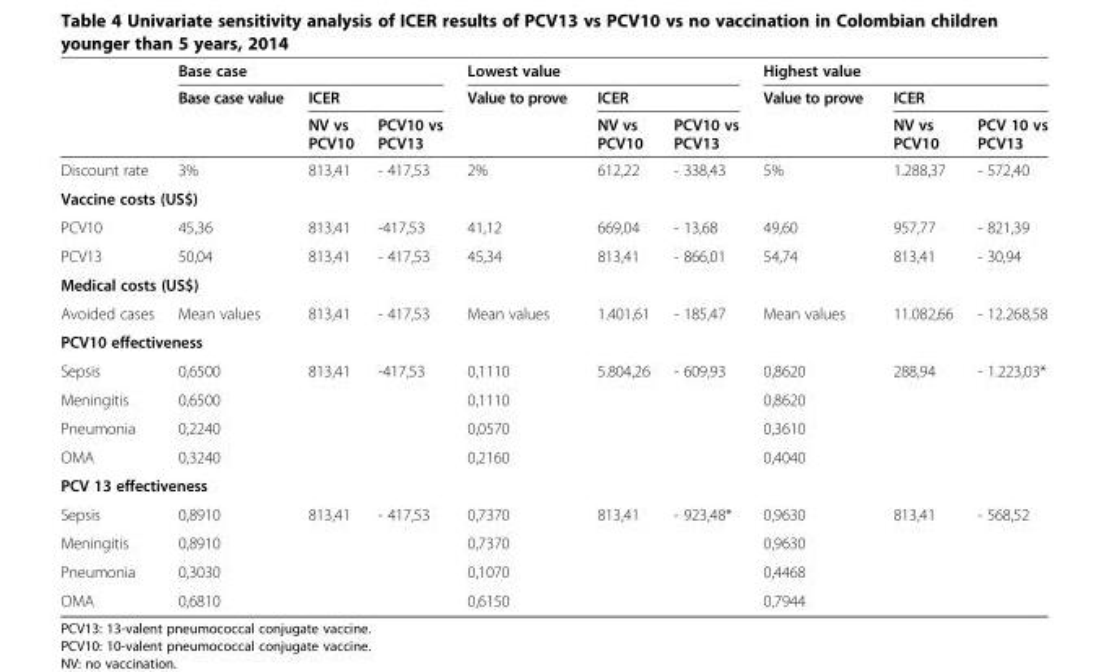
<table><thead><tr><td rowspan="3"></td><td colspan="3">Base case</td><td colspan="3">Lowest value</td><td colspan="3">Highest value</td></tr><tr><td rowspan="2">Base case value</td><td colspan="2">ICER</td><td rowspan="2">Value to prove</td><td colspan="2">ICER</td><td rowspan="2">Value to prove</td><td colspan="2">ICER</td></tr><tr><td>NV vs PCV10</td><td>PCV10 vs PCV13</td><td>NV vs PCV10</td><td>PCV10 vs PCV13</td><td>NV vs PCV10</td><td>PCV 10 vs PCV13</td></tr></thead><tbody><tr><td>Discount rate</td><td>3%</td><td>813,41</td><td>- 417,53</td><td>2%</td><td>612,22</td><td>- 338,43</td><td>5%</td><td>1.288,37</td><td>- 572,40</td></tr><tr><td colspan="10">Vaccine costs (US$)</td></tr><tr><td>PCV10</td><td>45,36</td><td>813,41</td><td>-417,53</td><td>41,12</td><td>669,04</td><td>- 13,68</td><td>49,60</td><td>957,77</td><td>- 821,39</td></tr><tr><td>PCV13</td><td>50,04</td><td>813,41</td><td>- 417,53</td><td>45,34</td><td>813,41</td><td>- 866,01</td><td>54,74</td><td>813,41</td><td>- 30,94</td></tr><tr><td colspan="10">Medical costs (US$)</td></tr><tr><td>Avoided cases</td><td>Mean values</td><td>813,41</td><td>- 417,53</td><td>Mean values</td><td>1.401,61</td><td>- 185,47</td><td>Mean values</td><td>11.082,66</td><td>- 12.268,58</td></tr><tr><td colspan="10">PCV10 effectiveness</td></tr><tr><td>Sepsis</td><td>0,6500</td><td rowspan="4">813,41</td><td rowspan="4">-417,53</td><td>0,1110</td><td rowspan="4">5.804,26</td><td rowspan="4">- 609,93</td><td>0,8620</td><td rowspan="4">288,94</td><td rowspan="4">- 1.223,03*</td></tr><tr><td>Meningitis</td><td>0,6500</td><td>0,1110</td><td>0,8620</td></tr><tr><td>Pneumonia</td><td>0,2240</td><td>0,0570</td><td>0,3610</td></tr><tr><td>OMA</td><td>0,3240</td><td>0,2160</td><td>0,4040</td></tr><tr><td colspan="10">PCV 13 effectiveness</td></tr><tr><td>Sepsis</td><td>0,8910</td><td rowspan="4">813,41</td><td rowspan="4">- 417,53</td><td>0,7370</td><td rowspan="4">813,41</td><td rowspan="4">- 923,48*</td><td>0,9630</td><td rowspan="4">813,41</td><td rowspan="4">- 568,52</td></tr><tr><td>Meningitis</td><td>0,8910</td><td>0,7370</td><td>0,9630</td></tr><tr><td>Pneumonia</td><td>0,3030</td><td>0,1070</td><td>0,4468</td></tr><tr><td>OMA</td><td>0,6810</td><td>0,6150</td><td>0,7944</td></tr></tbody></table>